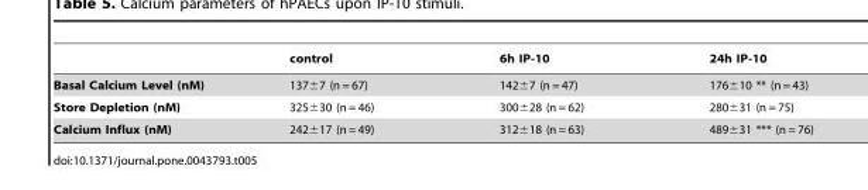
<table><thead><tr><td></td><td>control</td><td>6h IP-10</td><td>24h IP-10</td></tr></thead><tbody><tr><td>Basal Calcium Level (nM)</td><td>137±7 (n = 67)</td><td>142±7 (n = 47)</td><td>176±10 ** (n = 43)</td></tr><tr><td>Store Depletion (nM)</td><td>325±30 (n = 46)</td><td>300±28 (n = 62)</td><td>280±31 (n = 75)</td></tr><tr><td>Calcium Influx (nM)</td><td>242±17 (n = 49)</td><td>312±18 (n = 63)</td><td>489±31 *** (n = 76)</td></tr></tbody></table>